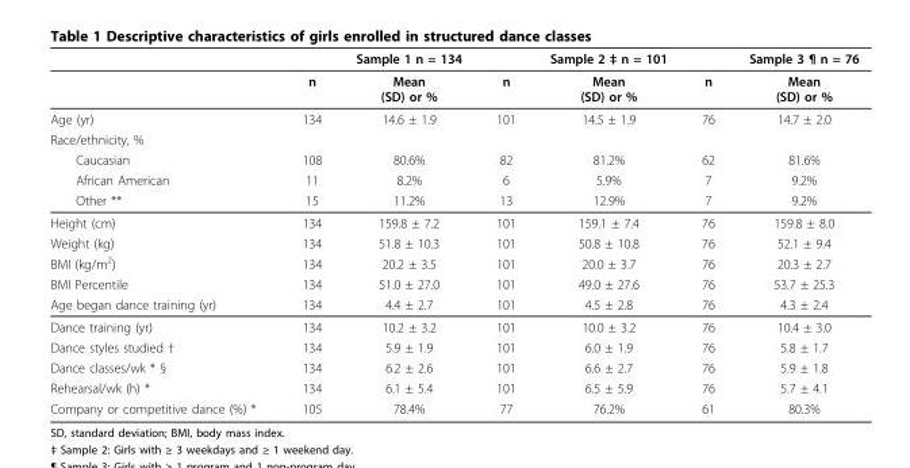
<table><thead><tr><td></td><td></td><td>Sample 1 n = 134</td><td></td><td>Sample 2 ‡ n = 101</td><td></td><td>Sample 3 ¶ n = 76</td></tr></thead><tbody><tr><td></td><td>n</td><td>Mean (SD) or %</td><td>n</td><td>Mean (SD) or %</td><td>n</td><td>Mean (SD) or %</td></tr><tr><td>Age (yr)</td><td>134</td><td>14.6 ± 1.9</td><td>101</td><td>14.5 ± 1.9</td><td>76</td><td>14.7 ± 2.0</td></tr><tr><td colspan="7">Race/ethnicity, %</td></tr><tr><td>Caucasian</td><td>108</td><td>80.6%</td><td>82</td><td>81.2%</td><td>62</td><td>81.6%</td></tr><tr><td>African American</td><td>11</td><td>8.2%</td><td>6</td><td>5.9%</td><td>7</td><td>9.2%</td></tr><tr><td>Other **</td><td>15</td><td>11.2%</td><td>13</td><td>12.9%</td><td>7</td><td>9.2%</td></tr><tr><td>Height (cm)</td><td>134</td><td>159.8 ± 7.2</td><td>101</td><td>159.1 ± 7.4</td><td>76</td><td>159.8 ± 8.0</td></tr><tr><td>Weight (kg)</td><td>134</td><td>51.8 ± 10.3</td><td>101</td><td>50.8 ± 10.8</td><td>76</td><td>52.1 ± 9.4</td></tr><tr><td>BMI (kg/m<sup>2</sup>)</td><td>134</td><td>20.2 ± 3.5</td><td>101</td><td>20.0 ± 3.7</td><td>76</td><td>20.3 ± 2.7</td></tr><tr><td>BMI Percentile</td><td>134</td><td>51.0 ± 27.0</td><td>101</td><td>49.0 ± 27.6</td><td>76</td><td>53.7 ± 25.3</td></tr><tr><td>Age began dance training (yr)</td><td>134</td><td>4.4 ± 2.7</td><td>101</td><td>4.5 ± 2.8</td><td>76</td><td>4.3 ± 2.4</td></tr><tr><td>Dance training (yr)</td><td>134</td><td>10.2 ± 3.2</td><td>101</td><td>10.0 ± 3.2</td><td>76</td><td>10.4 ± 3.0</td></tr><tr><td>Dance styles studied †</td><td>134</td><td>5.9 ± 1.9</td><td>101</td><td>6.0 ± 1.9</td><td>76</td><td>5.8 ± 1.7</td></tr><tr><td>Dance classes/wk * §</td><td>134</td><td>6.2 ± 2.6</td><td>101</td><td>6.6 ± 2.7</td><td>76</td><td>5.9 ± 1.8</td></tr><tr><td>Rehearsal/wk (h) *</td><td>134</td><td>6.1 ± 5.4</td><td>101</td><td>6.5 ± 5.9</td><td>76</td><td>5.7 ± 4.1</td></tr><tr><td>Company or competitive dance (%) *</td><td>105</td><td>78.4%</td><td>77</td><td>76.2%</td><td>61</td><td>80.3%</td></tr></tbody></table>